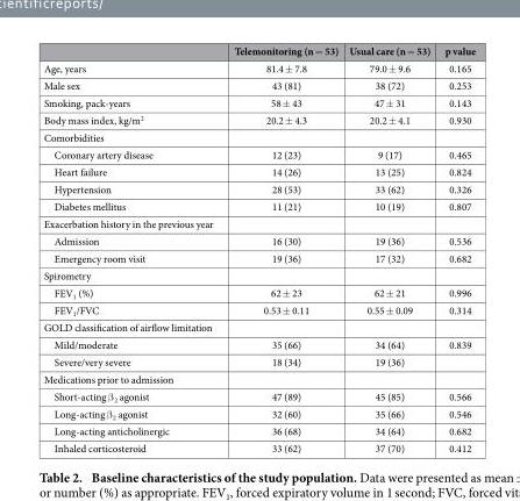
<table><thead><tr><td></td><td>Telemonitoring (n = 53)</td><td>Usual care (n = 53)</td><td>p value</td></tr></thead><tbody><tr><td>Age, years</td><td>81.4 ± 7.8</td><td>79.0 ± 9.6</td><td>0.165</td></tr><tr><td>Male sex</td><td>43 (81)</td><td>38 (72)</td><td>0.253</td></tr><tr><td>Smoking, pack-years</td><td>58 ± 43</td><td>47 ± 31</td><td>0.143</td></tr><tr><td>Body mass index, kg/m<sup>2</sup></td><td>20.2 ± 4.3</td><td>20.2 ± 4.1</td><td>0.930</td></tr><tr><td colspan="4">Comorbidities</td></tr><tr><td>Coronary artery disease</td><td>12 (23)</td><td>9 (17)</td><td>0.465</td></tr><tr><td>Heart failure</td><td>14 (26)</td><td>13 (25)</td><td>0.824</td></tr><tr><td>Hypertension</td><td>28 (53)</td><td>33 (62)</td><td>0.326</td></tr><tr><td>Diabetes mellitus</td><td>11 (21)</td><td>10 (19)</td><td>0.807</td></tr><tr><td colspan="4">Exacerbation history in the previous year</td></tr><tr><td>Admission</td><td>16 (30)</td><td>19 (36)</td><td>0.536</td></tr><tr><td>Emergency room visit</td><td>19 (36)</td><td>17 (32)</td><td>0.682</td></tr><tr><td colspan="4">Spirometry</td></tr><tr><td>FEV<sub>1</sub> (%)</td><td>62 ± 23</td><td>62 ± 21</td><td>0.996</td></tr><tr><td>FEV<sub>1</sub>/FVC</td><td>0.53 ± 0.11</td><td>0.55 ± 0.09</td><td>0.314</td></tr><tr><td colspan="4">GOLD classification of airflow limitation</td></tr><tr><td>Mild/moderate</td><td>35 (66)</td><td>34 (64)</td><td>0.839</td></tr><tr><td>Severe/very severe</td><td>18 (34)</td><td>19 (36)</td><td></td></tr><tr><td colspan="4">Medications prior to admission</td></tr><tr><td>Short-acting β <sub>2</sub> agonist</td><td>47 (89)</td><td>45 (85)</td><td>0.566</td></tr><tr><td>Long-acting β <sub>2</sub> agonist</td><td>32 (60)</td><td>35 (66)</td><td>0.546</td></tr><tr><td>Long-acting anticholinergic</td><td>36 (68)</td><td>34 (64)</td><td>0.682</td></tr><tr><td>Inhaled corticosteroid</td><td>33 (62)</td><td>37 (70)</td><td>0.412</td></tr></tbody></table>